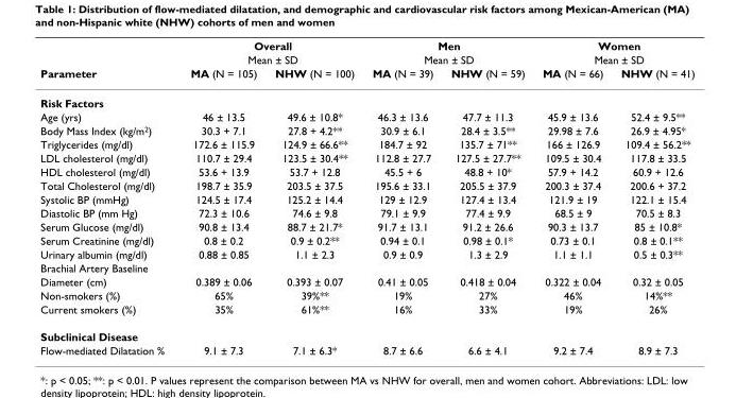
<table><thead><tr><td rowspan="3">Parameter</td><td rowspan="2" colspan="2">Overall Mean ± SD</td><td rowspan="2" colspan="2">Men Mean ± SD</td><td rowspan="2" colspan="2">Women Mean ± SD</td></tr><tr></tr><tr><td>MA (N = 105)</td><td>NHW (N = 100)</td><td>MA (N = 39)</td><td>NHW (N = 59)</td><td>MA (N = 66)</td><td>NHW (N = 41)</td></tr></thead><tbody><tr><td colspan="7">Risk Factors</td></tr><tr><td>Age (yrs)</td><td>46 ± 13.5</td><td>49.6 ± 10.8*</td><td>46.3 ± 13.6</td><td>47.7 ± 11.3</td><td>45.9 ± 13.6</td><td>52.4 ± 9.5**</td></tr><tr><td>Body Mass Index (kg/m<sup>2</sup>)</td><td>30.3 + 7.1</td><td>27.8 + 4.2**</td><td>30.9 ± 6.1</td><td>28.4 ± 3.5**</td><td>29.98 ± 7.6</td><td>26.9 ± 4.95*</td></tr><tr><td>Triglycerides (mg/dl)</td><td>172.6 ± 115.9</td><td>124.9 ± 66.6**</td><td>184.7 ± 92</td><td>135.7 ± 71**</td><td>166 ± 126.9</td><td>109.4 ± 56.2**</td></tr><tr><td>LDL cholesterol (mg/dl)</td><td>110.7 ± 29.4</td><td>123.5 ± 30.4**</td><td>112.8 ± 27.7</td><td>127.5 ± 27.7**</td><td>109.5 ± 30.4</td><td>117.8 ± 33.5</td></tr><tr><td>HDL cholesterol (mg/dl)</td><td>53.6 + 13.9</td><td>53.7 + 12.8</td><td>45.5 + 6</td><td>48.8 + 10*</td><td>57.9 + 14.2</td><td>60.9 + 12.6</td></tr><tr><td>Total Cholesterol (mg/dl)</td><td>198.7 ± 35.9</td><td>203.5 ± 37.5</td><td>195.6 ± 33.1</td><td>205.5 ± 37.9</td><td>200.3 ± 37.4</td><td>200.6 + 37.2</td></tr><tr><td>Systolic BP (mmHg)</td><td>124.5 ± 17.4</td><td>125.2 ± 14.4</td><td>129 ± 12.9</td><td>127.4 ± 13.4</td><td>121.9 ± 19</td><td>122.1 ± 15.4</td></tr><tr><td>Diastolic BP (mm Hg)</td><td>72.3 ± 10.6</td><td>74.6 ± 9.8</td><td>79.1 ± 9.9</td><td>77.4 ± 9.9</td><td>68.5 ± 9</td><td>70.5 ± 8.3</td></tr><tr><td>Serum Glucose (mg/dl)</td><td>90.8 ± 13.4</td><td>88.7 ± 21.7*</td><td>91.7 ± 13.1</td><td>91.2 ± 26.6</td><td>90.3 ± 13.7</td><td>85 ± 10.8*</td></tr><tr><td>Serum Creatinine (mg/dl)</td><td>0.8 ± 0.2</td><td>0.9 ± 0.2**</td><td>0.94 ± 0.1</td><td>0.98 ± 0.1*</td><td>0.73 ± 0.1</td><td>0.8 ± 0.1**</td></tr><tr><td>Urinary albumin (mg/dl)</td><td>0.88 ± 0.85</td><td>1.1 ± 2.3</td><td>0.9 ± 0.9</td><td>1.3 ± 2.9</td><td>1.1 ± 1.1</td><td>0.5 ± 0.3**</td></tr><tr><td colspan="7">Brachial Artery Baseline</td></tr><tr><td>Diameter (cm)</td><td>0.389 ± 0.06</td><td>0.393 ± 0.07</td><td>0.41 ± 0.05</td><td>0.418 ± 0.04</td><td>0.322 ± 0.04</td><td>0.32 ± 0.05</td></tr><tr><td>Non-smokers (%)</td><td>65%</td><td>39%**</td><td>19%</td><td>27%</td><td>46%</td><td>14%**</td></tr><tr><td>Current smokers (%)</td><td>35%</td><td>61%**</td><td>16%</td><td>33%</td><td>19%</td><td>26%</td></tr><tr><td colspan="7">Subclinical Disease</td></tr><tr><td>Flow-mediated Dilatation %</td><td>9.1 ± 7.3</td><td>7.1 ± 6.3*</td><td>8.7 ± 6.6</td><td>6.6 ± 4.1</td><td>9.2 ± 7.4</td><td>8.9 ± 7.3</td></tr></tbody></table>